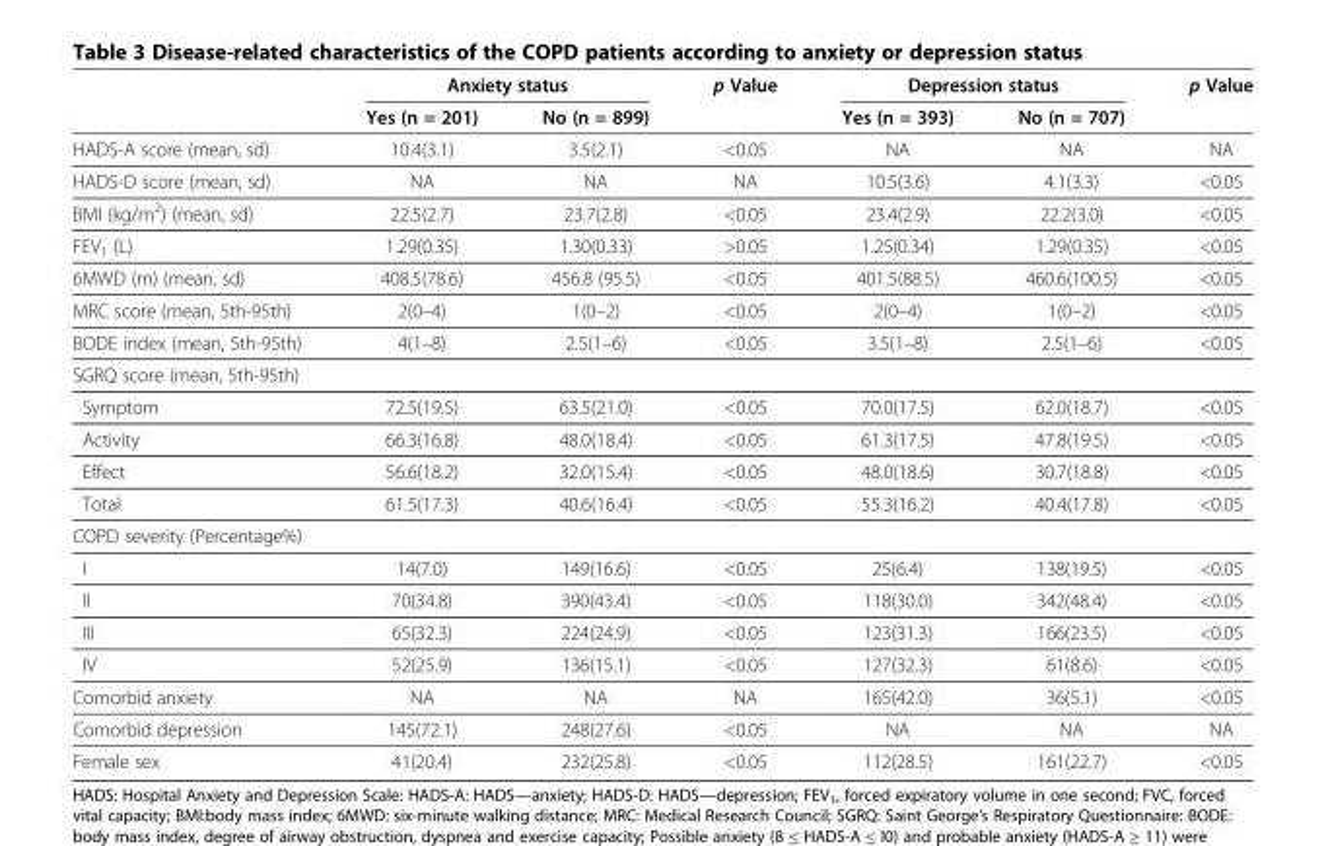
<table><thead><tr><td rowspan="2"></td><td colspan="2">Anxiety status</td><td rowspan="2">p Value</td><td colspan="2">Depression status</td><td rowspan="2">p Value</td></tr><tr><td>Yes (n = 201)</td><td>No (n = 899)</td><td>Yes (n = 393)</td><td>No (n = 707)</td></tr></thead><tbody><tr><td>HADS-A score (mean, sd)</td><td>10.4(3.1)</td><td>3.5(2.1)</td><td>&lt;0.05</td><td>NA</td><td>NA</td><td>NA</td></tr><tr><td>HADS-D score (mean, sd)</td><td>NA</td><td>NA</td><td>NA</td><td>10.5(3.6)</td><td>4.1(3.3)</td><td>&lt;0.05</td></tr><tr><td>BMI (kg/m<sup>2</sup>) (mean, sd)</td><td>22.5(2.7)</td><td>23.7(2.8)</td><td>&lt;0.05</td><td>23.4(2.9)</td><td>22.2(3.0)</td><td>&lt;0.05</td></tr><tr><td>FEV<sub>1</sub> (L)</td><td>1.29(0.35)</td><td>1.30(0.33)</td><td>&gt;0.05</td><td>1.25(0.34)</td><td>1.29(0.35)</td><td>&lt;0.05</td></tr><tr><td>6MWD (m) (mean, sd)</td><td>408.5(78.6)</td><td>456.8 (95.5)</td><td>&lt;0.05</td><td>401.5(88.5)</td><td>460.6(100.5)</td><td>&lt;0.05</td></tr><tr><td>MRC score (mean, 5th-95th)</td><td>2(0–4)</td><td>1(0–2)</td><td>&lt;0.05</td><td>2(0–4)</td><td>1(0–2)</td><td>&lt;0.05</td></tr><tr><td>BODE index (mean, 5th-95th)</td><td>4(1–8)</td><td>2.5(1–6)</td><td>&lt;0.05</td><td>3.5(1–8)</td><td>2.5(1–6)</td><td>&lt;0.05</td></tr><tr><td colspan="7">SGRQ score (mean, 5th-95th)</td></tr><tr><td>Symptom</td><td>72.5(19.5)</td><td>63.5(21.0)</td><td>&lt;0.05</td><td>70.0(17.5)</td><td>62.0(18.7)</td><td>&lt;0.05</td></tr><tr><td>Activity</td><td>66.3(16.8)</td><td>48.0(18.4)</td><td>&lt;0.05</td><td>61.3(17.5)</td><td>47.8(19.5)</td><td>&lt;0.05</td></tr><tr><td>Effect</td><td>56.6(18.2)</td><td>32.0(15.4)</td><td>&lt;0.05</td><td>48.0(18.6)</td><td>30.7(18.8)</td><td>&lt;0.05</td></tr><tr><td>Total</td><td>61.5(17.3)</td><td>40.6(16.4)</td><td>&lt;0.05</td><td>55.3(16.2)</td><td>40.4(17.8)</td><td>&lt;0.05</td></tr><tr><td colspan="7">COPD severity (Percentage%)</td></tr><tr><td>I</td><td>14(7.0)</td><td>149(16.6)</td><td>&lt;0.05</td><td>25(6.4)</td><td>138(19.5)</td><td>&lt;0.05</td></tr><tr><td>II</td><td>70(34.8)</td><td>390(43.4)</td><td>&lt;0.05</td><td>118(30.0)</td><td>342(48.4)</td><td>&lt;0.05</td></tr><tr><td>III</td><td>65(32.3)</td><td>224(24.9)</td><td>&lt;0.05</td><td>123(31.3)</td><td>166(23.5)</td><td>&lt;0.05</td></tr><tr><td>IV</td><td>52(25.9)</td><td>136(15.1)</td><td>&lt;0.05</td><td>127(32.3)</td><td>61(8.6)</td><td>&lt;0.05</td></tr><tr><td>Comorbid anxiety</td><td>NA</td><td>NA</td><td>NA</td><td>165(42.0)</td><td>36(5.1)</td><td>&lt;0.05</td></tr><tr><td>Comorbid depression</td><td>145(72.1)</td><td>248(27.6)</td><td>&lt;0.05</td><td>NA</td><td>NA</td><td>NA</td></tr><tr><td>Female sex</td><td>41(20.4)</td><td>232(25.8)</td><td>&lt;0.05</td><td>112(28.5)</td><td>161(22.7)</td><td>&lt;0.05</td></tr></tbody></table>